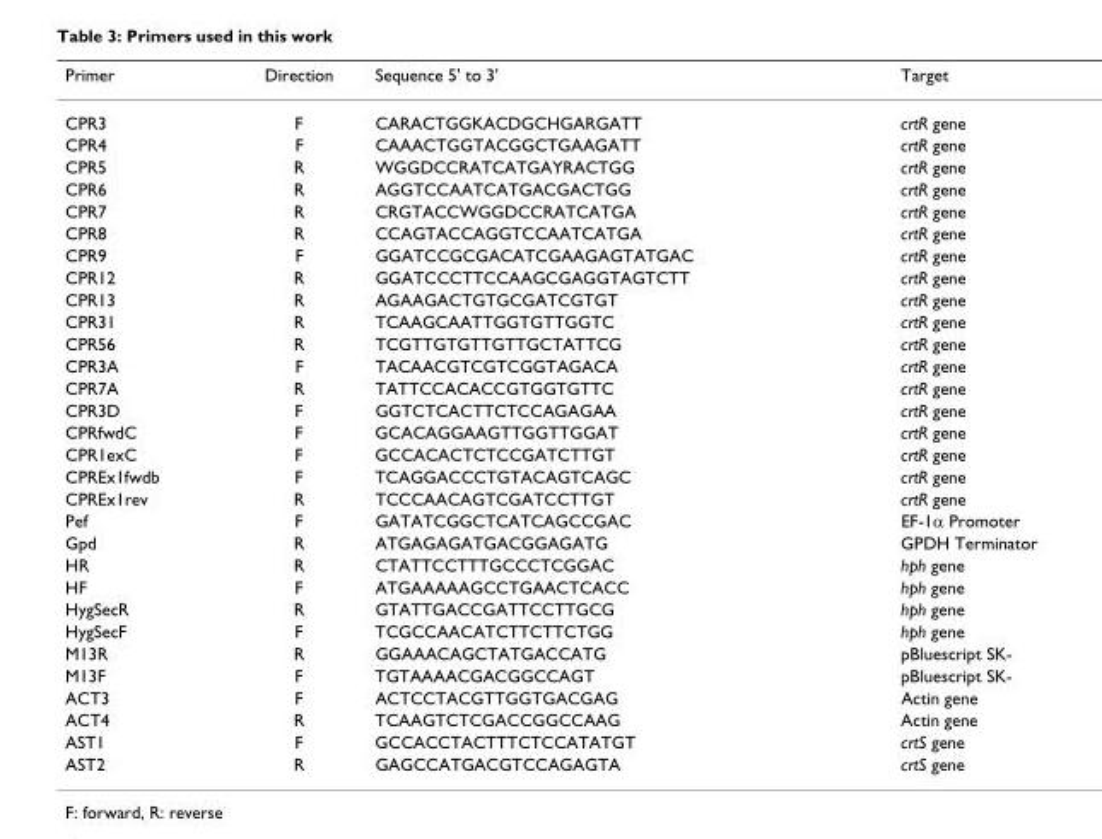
<table><thead><tr><td>Primer</td><td>Direction</td><td>Sequence 5&#x27; to 3&#x27;</td><td>Target</td></tr></thead><tbody><tr><td>CPR3</td><td>F</td><td>CARACTGGKACDGCHGARGATT</td><td>crtR gene</td></tr><tr><td>CPR4</td><td>F</td><td>CAAACTGGTACGGCTGAAGATT</td><td>crtR gene</td></tr><tr><td>CPR5</td><td>R</td><td>WGGDCCRATCATGAYRACTGG</td><td>crtR gene</td></tr><tr><td>CPR6</td><td>R</td><td>AGGTCCAATCATGACGACTGG</td><td>crtR gene</td></tr><tr><td>CPR7</td><td>R</td><td>CRGTACCWGGDCCRATCATGA</td><td>crtR gene</td></tr><tr><td>CPR8</td><td>R</td><td>CCAGTACCAGGTCCAATCATGA</td><td>crtR gene</td></tr><tr><td>CPR9</td><td>F</td><td>GGATCCGCGACATCGAAGAGTATGAC</td><td>crtR gene</td></tr><tr><td>CPR12</td><td>R</td><td>GGATCCCTTCCAAGCGAGGTAGTCTT</td><td>crtR gene</td></tr><tr><td>CPR13</td><td>R</td><td>AGAAGACTGTGCGATCGTGT</td><td>crtR gene</td></tr><tr><td>CPR31</td><td>R</td><td>TCAAGCAATTGGTGTTGGTC</td><td>crtR gene</td></tr><tr><td>CPR56</td><td>R</td><td>TCGTTGTGTTGTTGCTATTCG</td><td>crtR gene</td></tr><tr><td>CPR3A</td><td>F</td><td>TACAACGTCGTCGGTAGACA</td><td>crtR gene</td></tr><tr><td>CPR7A</td><td>R</td><td>TATTCCACACCGTGGTGTTC</td><td>crtR gene</td></tr><tr><td>CPR3D</td><td>F</td><td>GGTCTCACTTCTCCAGAGAA</td><td>crtR gene</td></tr><tr><td>CPRfwdC</td><td>F</td><td>GCACAGGAAGTTGGTTGGAT</td><td>crtR gene</td></tr><tr><td>CPR1exC</td><td>F</td><td>GCCACACTCTCCGATCTTGT</td><td>crtR gene</td></tr><tr><td>CPREx1fwdb</td><td>F</td><td>TCAGGACCCTGTACAGTCAGC</td><td>crtR gene</td></tr><tr><td>CPREx1rev</td><td>R</td><td>TCCCAACAGTCGATCCTTGT</td><td>crtR gene</td></tr><tr><td>Pef</td><td>F</td><td>GATATCGGCTCATCAGCCGAC</td><td>EF-1α Promoter</td></tr><tr><td>Gpd</td><td>R</td><td>ATGAGAGATGACGGAGATG</td><td>GPDH Terminator</td></tr><tr><td>HR</td><td>R</td><td>CTATTCCTTTGCCCTCGGAC</td><td>hph gene</td></tr><tr><td>HF</td><td>F</td><td>ATGAAAAAGCCTGAACTCACC</td><td>hph gene</td></tr><tr><td>HygSecR</td><td>R</td><td>GTATTGACCGATTCCTTGCG</td><td>hph gene</td></tr><tr><td>HygSecF</td><td>F</td><td>TCGCCAACATCTTCTTCTGG</td><td>hph gene</td></tr><tr><td>M13R</td><td>R</td><td>GGAAACAGCTATGACCATG</td><td>pBluescript SK-</td></tr><tr><td>M13F</td><td>F</td><td>TGTAAAACGACGGCCAGT</td><td>pBluescript SK-</td></tr><tr><td>ACT3</td><td>F</td><td>ACTCCTACGTTGGTGACGAG</td><td>Actin gene</td></tr><tr><td>ACT4</td><td>R</td><td>TCAAGTCTCGACCGGCCAAG</td><td>Actin gene</td></tr><tr><td>AST1</td><td>F</td><td>GCCACCTACTTTCTCCATATGT</td><td>crtS gene</td></tr><tr><td>AST2</td><td>R</td><td>GAGCCATGACGTCCAGAGTA</td><td>crtS gene</td></tr></tbody></table>